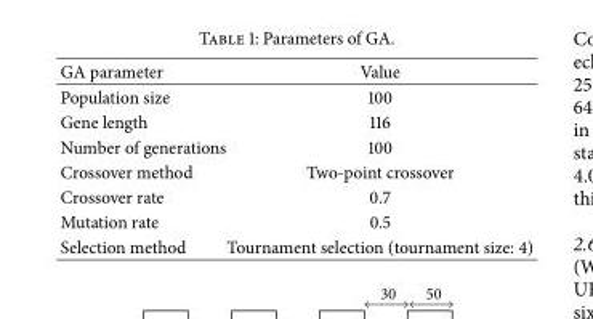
<table><thead><tr><td>GA parameter</td><td>Value</td></tr></thead><tbody><tr><td>Population size</td><td>100</td></tr><tr><td>Gene length</td><td>116</td></tr><tr><td>Number of generations</td><td>100</td></tr><tr><td>Crossover method</td><td>Two-point crossover</td></tr><tr><td>Crossover rate</td><td>0.7</td></tr><tr><td>Mutation rate</td><td>0.5</td></tr><tr><td>Selection method</td><td>Tournament selection (tournament size: 4)</td></tr></tbody></table>